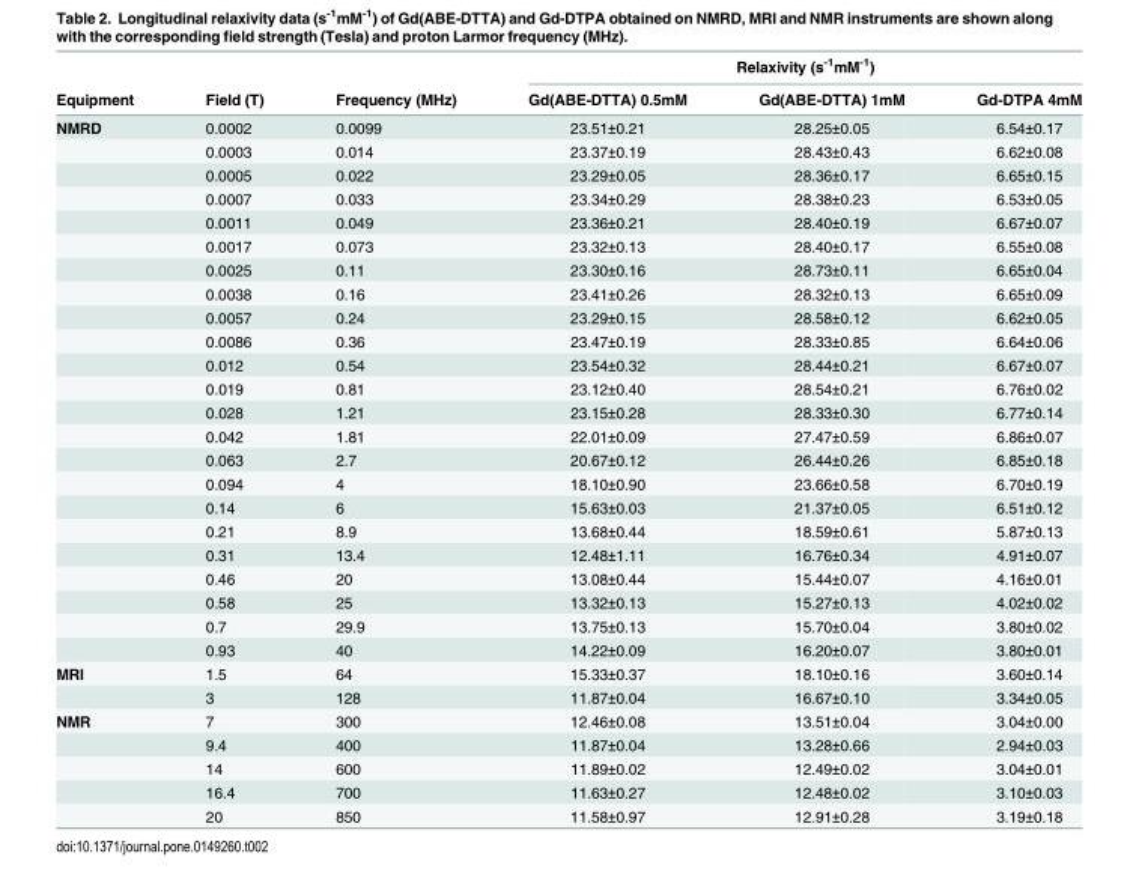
<table><thead><tr><td rowspan="2">Equipment</td><td rowspan="2">Field (T)</td><td rowspan="2">Frequency (MHz)</td><td colspan="3">Relaxivity (s<sup>-1</sup>mM<sup>-1</sup>)</td></tr><tr><td>Gd(ABE-DTTA) 0.5mM</td><td>Gd(ABE-DTTA) 1mM</td><td>Gd-DTPA 4mM</td></tr></thead><tbody><tr><td rowspan="23">NMRD</td><td>0.0002</td><td>0.0099</td><td>23.51±0.21</td><td>28.25±0.05</td><td>6.54±0.17</td></tr><tr><td>0.0003</td><td>0.014</td><td>23.37±0.19</td><td>28.43±0.43</td><td>6.62±0.08</td></tr><tr><td>0.0005</td><td>0.022</td><td>23.29±0.05</td><td>28.36±0.17</td><td>6.65±0.15</td></tr><tr><td>0.0007</td><td>0.033</td><td>23.34±0.29</td><td>28.38±0.23</td><td>6.53±0.05</td></tr><tr><td>0.0011</td><td>0.049</td><td>23.36±0.21</td><td>28.40±0.19</td><td>6.67±0.07</td></tr><tr><td>0.0017</td><td>0.073</td><td>23.32±0.13</td><td>28.40±0.17</td><td>6.55±0.08</td></tr><tr><td>0.0025</td><td>0.11</td><td>23.30±0.16</td><td>28.73±0.11</td><td>6.65±0.04</td></tr><tr><td>0.0038</td><td>0.16</td><td>23.41±0.26</td><td>28.32±0.13</td><td>6.65±0.09</td></tr><tr><td>0.0057</td><td>0.24</td><td>23.29±0.15</td><td>28.58±0.12</td><td>6.62±0.05</td></tr><tr><td>0.0086</td><td>0.36</td><td>23.47±0.19</td><td>28.33±0.85</td><td>6.64±0.06</td></tr><tr><td>0.012</td><td>0.54</td><td>23.54±0.32</td><td>28.44±0.21</td><td>6.67±0.07</td></tr><tr><td>0.019</td><td>0.81</td><td>23.12±0.40</td><td>28.54±0.21</td><td>6.76±0.02</td></tr><tr><td>0.028</td><td>1.21</td><td>23.15±0.28</td><td>28.33±0.30</td><td>6.77±0.14</td></tr><tr><td>0.042</td><td>1.81</td><td>22.01±0.09</td><td>27.47±0.59</td><td>6.86±0.07</td></tr><tr><td>0.063</td><td>2.7</td><td>20.67±0.12</td><td>26.44±0.26</td><td>6.85±0.18</td></tr><tr><td>0.094</td><td>4</td><td>18.10±0.90</td><td>23.66±0.58</td><td>6.70±0.19</td></tr><tr><td>0.14</td><td>6</td><td>15.63±0.03</td><td>21.37±0.05</td><td>6.51±0.12</td></tr><tr><td>0.21</td><td>8.9</td><td>13.68±0.44</td><td>18.59±0.61</td><td>5.87±0.13</td></tr><tr><td>0.31</td><td>13.4</td><td>12.48±1.11</td><td>16.76±0.34</td><td>4.91±0.07</td></tr><tr><td>0.46</td><td>20</td><td>13.08±0.44</td><td>15.44±0.07</td><td>4.16±0.01</td></tr><tr><td>0.58</td><td>25</td><td>13.32±0.13</td><td>15.27±0.13</td><td>4.02±0.02</td></tr><tr><td>0.7</td><td>29.9</td><td>13.75±0.13</td><td>15.70±0.04</td><td>3.80±0.02</td></tr><tr><td>0.93</td><td>40</td><td>14.22±0.09</td><td>16.20±0.07</td><td>3.80±0.01</td></tr><tr><td rowspan="2">MRI</td><td>1.5</td><td>64</td><td>15.33±0.37</td><td>18.10±0.16</td><td>3.60±0.14</td></tr><tr><td>3</td><td>128</td><td>11.87±0.04</td><td>16.67±0.10</td><td>3.34±0.05</td></tr><tr><td rowspan="5">NMR</td><td>7</td><td>300</td><td>12.46±0.08</td><td>13.51±0.04</td><td>3.04±0.00</td></tr><tr><td>9.4</td><td>400</td><td>11.87±0.04</td><td>13.28±0.66</td><td>2.94±0.03</td></tr><tr><td>14</td><td>600</td><td>11.89±0.02</td><td>12.49±0.02</td><td>3.04±0.01</td></tr><tr><td>16.4</td><td>700</td><td>11.63±0.27</td><td>12.48±0.02</td><td>3.10±0.03</td></tr><tr><td>20</td><td>850</td><td>11.58±0.97</td><td>12.91±0.28</td><td>3.19±0.18</td></tr></tbody></table>